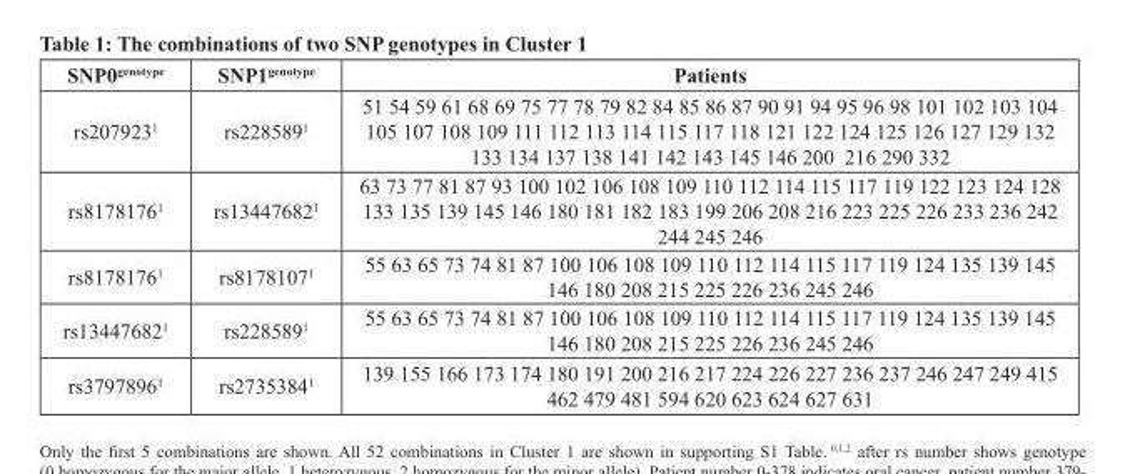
<table><thead><tr><td>SNP0<sup>genotype</sup></td><td>SNP1<sup>genotype</sup></td><td>Patients</td></tr></thead><tbody><tr><td>rs207923<sup>1</sup></td><td>rs228589<sup>1</sup></td><td>51 54 59 61 68 69 75 77 78 79 82 84 85 86 87 90 91 94 95 96 98 101 102 103 104 105 107 108 109 111 112 113 114 115 117 118 121 122 124 125 126 127 129 132 133 134 137 138 141 142 143 145 146 200 216 290 332</td></tr><tr><td>rs8178176<sup>1</sup></td><td>rs13447682<sup>1</sup></td><td>63 73 77 81 87 93 100 102 106 108 109 110 112 114 115 117 119 122 123 124 128 133 135 139 145 146 180 181 182 183 199 206 208 216 223 225 226 233 236 242 244 245 246</td></tr><tr><td>rs8178176<sup>1</sup></td><td>rs8178107<sup>1</sup></td><td>55 63 65 73 74 81 87 100 106 108 109 110 112 114 115 117 119 124 135 139 145 146 180 208 215 225 226 236 245 246</td></tr><tr><td>rs13447682<sup>1</sup></td><td>rs228589<sup>1</sup></td><td>55 63 65 73 74 81 87 100 106 108 109 110 112 114 115 117 119 124 135 139 145 146 180 208 215 225 226 236 245 246</td></tr><tr><td>rs3797896<sup>1</sup></td><td>rs2735384<sup>1</sup></td><td>139 155 166 173 174 180 191 200 216 217 224 226 227 236 237 246 247 249 415 462 479 481 594 620 623 624 627 631</td></tr></tbody></table>